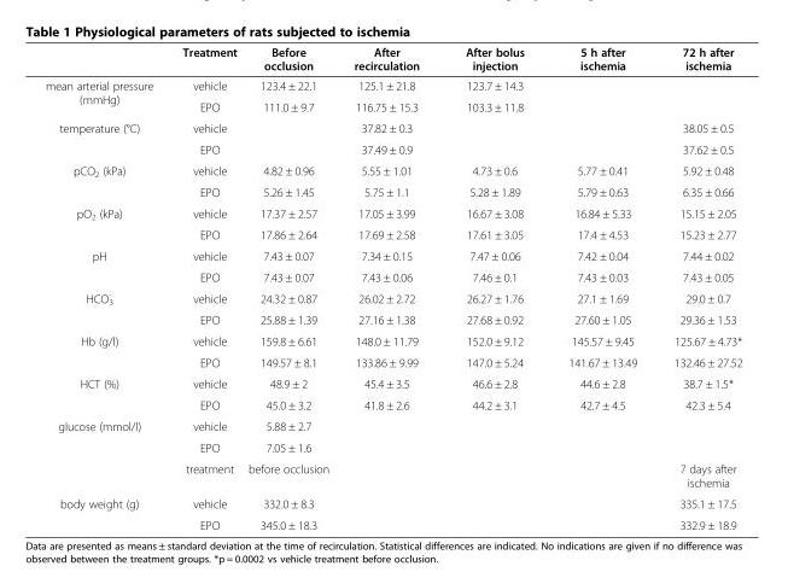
<table><thead><tr><td></td><td>Treatment</td><td>Before occlusion</td><td>After recirculation</td><td>After bolus injection</td><td>5 h after ischemia</td><td>72 h after ischemia</td></tr></thead><tbody><tr><td rowspan="2">mean arterial pressure (mmHg)</td><td>vehicle</td><td>123.4 ± 22.1</td><td>125.1 ± 21.8</td><td>123.7 ± 14.3</td><td></td><td></td></tr><tr><td>EPO</td><td>111.0 ± 9.7</td><td>116.75 ± 15.3</td><td>103.3 ± 11.8</td><td></td><td></td></tr><tr><td rowspan="2">temperature (°C)</td><td>vehicle</td><td></td><td>37.82 ± 0.3</td><td></td><td></td><td>38.05 ± 0.5</td></tr><tr><td>EPO</td><td></td><td>37.49 ± 0.9</td><td></td><td></td><td>37.62 ± 0.5</td></tr><tr><td rowspan="2">pCO<sub>2</sub> (kPa)</td><td>vehicle</td><td>4.82 ± 0.96</td><td>5.55 ± 1.01</td><td>4.73 ± 0.6</td><td>5.77 ± 0.41</td><td>5.92 ± 0.48</td></tr><tr><td>EPO</td><td>5.26 ± 1.45</td><td>5.75 ± 1.1</td><td>5.28 ± 1.89</td><td>5.79 ± 0.63</td><td>6.35 ± 0.66</td></tr><tr><td rowspan="2">pO<sub>2</sub> (kPa)</td><td>vehicle</td><td>17.37 ± 2.57</td><td>17.05 ± 3.99</td><td>16.67 ± 3.08</td><td>16.84 ± 5.33</td><td>15.15 ± 2.05</td></tr><tr><td>EPO</td><td>17.86 ± 2.64</td><td>17.69 ± 2.58</td><td>17.61 ± 3.05</td><td>17.4 ± 4.53</td><td>15.23 ± 2.77</td></tr><tr><td rowspan="2">pH</td><td>vehicle</td><td>7.43 ± 0.07</td><td>7.34 ± 0.15</td><td>7.47 ± 0.06</td><td>7.42 ± 0.04</td><td>7.44 ± 0.02</td></tr><tr><td>EPO</td><td>7.43 ± 0.07</td><td>7.43 ± 0.06</td><td>7.46 ± 0.1</td><td>7.43 ± 0.03</td><td>7.43 ± 0.05</td></tr><tr><td rowspan="2">HCO<sub>3</sub> <sup>-</sup></td><td>vehicle</td><td>24.32 ± 0.87</td><td>26.02 ± 2.72</td><td>26.27 ± 1.76</td><td>27.1 ± 1.69</td><td>29.0 ± 0.7</td></tr><tr><td>EPO</td><td>25.88 ± 1.39</td><td>27.16 ± 1.38</td><td>27.68 ± 0.92</td><td>27.60 ± 1.05</td><td>29.36 ± 1.53</td></tr><tr><td rowspan="2">Hb (g/l)</td><td>vehicle</td><td>159.8 ± 6.61</td><td>148.0 ± 11.79</td><td>152.0 ± 9.12</td><td>145.57 ± 9.45</td><td>125.67 ± 4.73*</td></tr><tr><td>EPO</td><td>149.57 ± 8.1</td><td>133.86 ± 9.99</td><td>147.0 ± 5.24</td><td>141.67 ± 13.49</td><td>132.46 ± 27.52</td></tr><tr><td rowspan="2">HCT (%)</td><td>vehicle</td><td>48.9 ± 2</td><td>45.4 ± 3.5</td><td>46.6 ± 2.8</td><td>44.6 ± 2.8</td><td>38.7 ± 1.5*</td></tr><tr><td>EPO</td><td>45.0 ± 3.2</td><td>41.8 ± 2.6</td><td>44.2 ± 3.1</td><td>42.7 ± 4.5</td><td>42.3 ± 5.4</td></tr><tr><td rowspan="3">glucose (mmol/l)</td><td>vehicle</td><td>5.88 ± 2.7</td><td></td><td></td><td></td><td></td></tr><tr><td>EPO</td><td>7.05 ± 1.6</td><td></td><td></td><td></td><td></td></tr><tr><td>treatment</td><td>before occlusion</td><td></td><td></td><td></td><td>7 days after ischemia</td></tr><tr><td rowspan="2">body weight (g)</td><td>vehicle</td><td>332.0 ± 8.3</td><td></td><td></td><td></td><td>335.1 ± 17.5</td></tr><tr><td>EPO</td><td>345.0 ± 18.3</td><td></td><td></td><td></td><td>332.9 ± 18.9</td></tr></tbody></table>